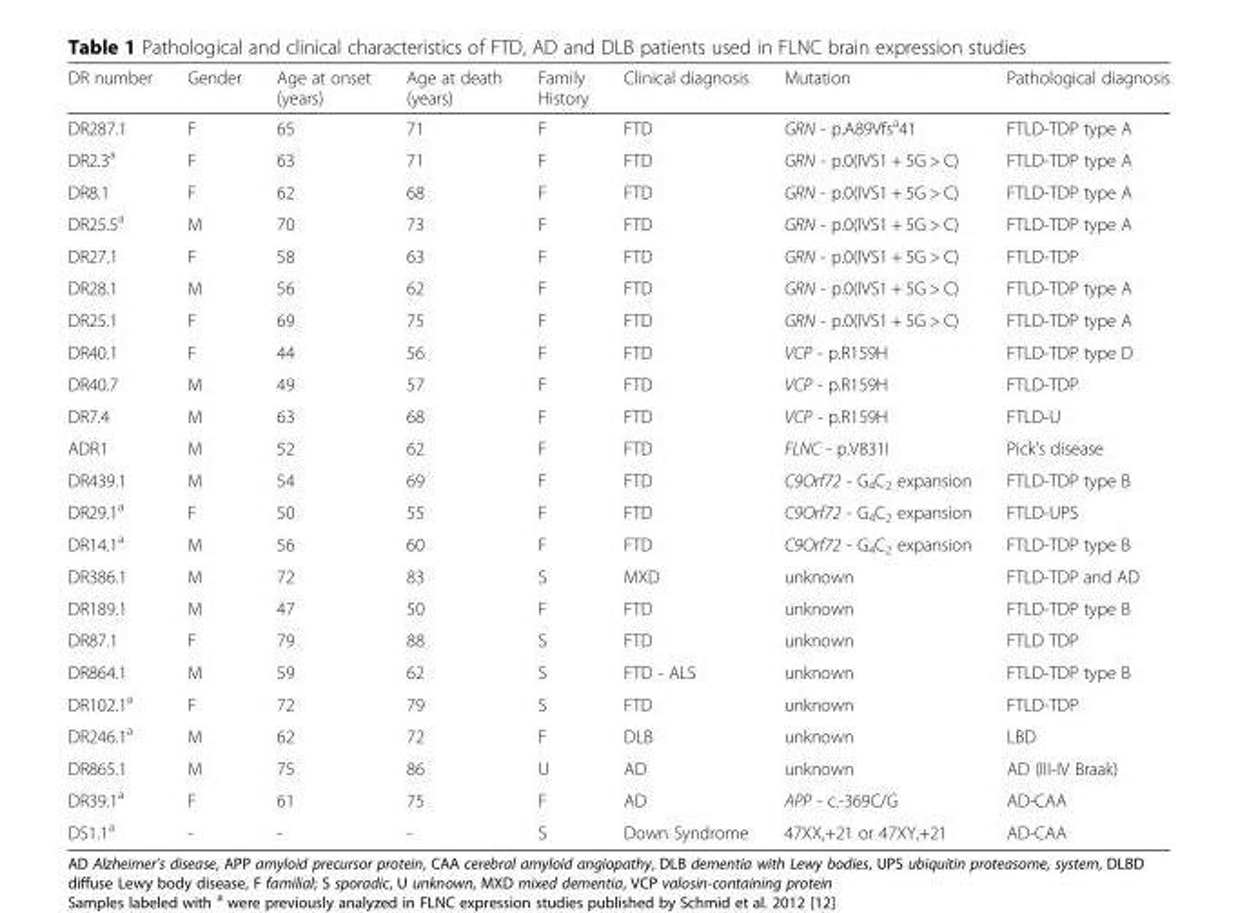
<table><thead><tr><td>DR number</td><td>Gender</td><td>Age at onset (years)</td><td>Age at death (years)</td><td>Family History</td><td>Clinical diagnosis</td><td>Mutation</td><td>Pathological diagnosis</td></tr></thead><tbody><tr><td>DR287.1</td><td>F</td><td>65</td><td>71</td><td>F</td><td>FTD</td><td>GRN - p.A89Vfs<sup>a</sup>41</td><td>FTLD-TDP type A</td></tr><tr><td>DR2.3<sup>a</sup></td><td>F</td><td>63</td><td>71</td><td>F</td><td>FTD</td><td>GRN - p.0(IVS1 + 5G &gt; C)</td><td>FTLD-TDP type A</td></tr><tr><td>DR8.1</td><td>F</td><td>62</td><td>68</td><td>F</td><td>FTD</td><td>GRN - p.0(IVS1 + 5G &gt; C)</td><td>FTLD-TDP type A</td></tr><tr><td>DR25.5<sup>a</sup></td><td>M</td><td>70</td><td>73</td><td>F</td><td>FTD</td><td>GRN - p.0(IVS1 + 5G &gt; C)</td><td>FTLD-TDP type A</td></tr><tr><td>DR27.1</td><td>F</td><td>58</td><td>63</td><td>F</td><td>FTD</td><td>GRN - p.0(IVS1 + 5G &gt; C)</td><td>FTLD-TDP</td></tr><tr><td>DR28.1</td><td>M</td><td>56</td><td>62</td><td>F</td><td>FTD</td><td>GRN - p.0(IVS1 + 5G &gt; C)</td><td>FTLD-TDP type A</td></tr><tr><td>DR25.1</td><td>F</td><td>69</td><td>75</td><td>F</td><td>FTD</td><td>GRN - p.0(IVS1 + 5G &gt; C)</td><td>FTLD-TDP type A</td></tr><tr><td>DR40.1</td><td>F</td><td>44</td><td>56</td><td>F</td><td>FTD</td><td>VCP - p.R159H</td><td>FTLD-TDP type D</td></tr><tr><td>DR40.7</td><td>M</td><td>49</td><td>57</td><td>F</td><td>FTD</td><td>VCP - p.R159H</td><td>FTLD-TDP</td></tr><tr><td>DR7.4</td><td>M</td><td>63</td><td>68</td><td>F</td><td>FTD</td><td>VCP - p.R159H</td><td>FTLD-U</td></tr><tr><td>ADR1</td><td>M</td><td>52</td><td>62</td><td>F</td><td>FTD</td><td>FLNC - p.V831I</td><td>Pick’s disease</td></tr><tr><td>DR439.1</td><td>M</td><td>54</td><td>69</td><td>F</td><td>FTD</td><td>C9Orf72 - G<sub>4</sub>C<sub>2</sub> expansion</td><td>FTLD-TDP type B</td></tr><tr><td>DR29.1<sup>a</sup></td><td>F</td><td>50</td><td>55</td><td>F</td><td>FTD</td><td>C9Orf72 - G<sub>4</sub>C<sub>2</sub> expansion</td><td>FTLD-UPS</td></tr><tr><td>DR14.1<sup>a</sup></td><td>M</td><td>56</td><td>60</td><td>F</td><td>FTD</td><td>C9Orf72 - G<sub>4</sub>C<sub>2</sub> expansion</td><td>FTLD-TDP type B</td></tr><tr><td>DR386.1</td><td>M</td><td>72</td><td>83</td><td>S</td><td>MXD</td><td>unknown</td><td>FTLD-TDP and AD</td></tr><tr><td>DR189.1</td><td>M</td><td>47</td><td>50</td><td>F</td><td>FTD</td><td>unknown</td><td>FTLD-TDP type B</td></tr><tr><td>DR87.1</td><td>F</td><td>79</td><td>88</td><td>S</td><td>FTD</td><td>unknown</td><td>FTLD TDP</td></tr><tr><td>DR864.1</td><td>M</td><td>59</td><td>62</td><td>S</td><td>FTD - ALS</td><td>unknown</td><td>FTLD-TDP type B</td></tr><tr><td>DR102.1<sup>a</sup></td><td>F</td><td>72</td><td>79</td><td>S</td><td>FTD</td><td>unknown</td><td>FTLD-TDP</td></tr><tr><td>DR246.1<sup>a</sup></td><td>M</td><td>62</td><td>72</td><td>F</td><td>DLB</td><td>unknown</td><td>LBD</td></tr><tr><td>DR865.1</td><td>M</td><td>75</td><td>86</td><td>U</td><td>AD</td><td>unknown</td><td>AD (III-IV Braak)</td></tr><tr><td>DR39.1<sup>a</sup></td><td>F</td><td>61</td><td>75</td><td>F</td><td>AD</td><td>APP - c.-369C/G</td><td>AD-CAA</td></tr><tr><td>DS1.1<sup>a</sup></td><td>-</td><td>-</td><td>-</td><td>S</td><td>Down Syndrome</td><td>47XX,+21 or 47XY,+21</td><td>AD-CAA</td></tr></tbody></table>